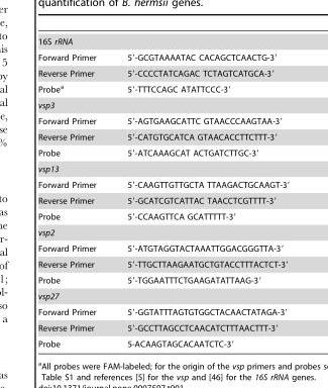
<table><tbody><tr><td colspan="2">16S rRNA</td></tr><tr><td>Forward Primer</td><td>5′-GCGTAAAATAC CACAGCTCAACTG-3′</td></tr><tr><td>Reverse Primer</td><td>5′-CCCCTATCAGAC TCTAGTCATGCA-3′</td></tr><tr><td>Probe<sup>a</sup></td><td>5′-TTTCCAGC ATATTCCC-3′</td></tr><tr><td colspan="2">vsp3</td></tr><tr><td>Forward Primer</td><td>5′-AGTGAAGCATTC GTAACCCAAGTAA-3′</td></tr><tr><td>Reverse Primer</td><td>5′-CATGTGCATCA GTAACACCTTCTTT-3′</td></tr><tr><td>Probe</td><td>5′-ATCAAAGCAT ACTGATCTTGC-3′</td></tr><tr><td colspan="2">vsp13</td></tr><tr><td>Forward Primer</td><td>5′-CAAGTTGTTGCTA TTAAGACTGCAAGT-3′</td></tr><tr><td>Reverse Primer</td><td>5′-GCATCGTCATTAC TAACCTCGTTTT-3′</td></tr><tr><td>Probe</td><td>5′-CCAAGTTCA GCATTTTT-3′</td></tr><tr><td colspan="2">vsp2</td></tr><tr><td>Forward Primer</td><td>5′-ATGTAGGTACTAAATTGGACGGGTTA-3′</td></tr><tr><td>Reverse Primer</td><td>5′-TTGCTTAAGAATGCTGTACCTTTACTCT-3′</td></tr><tr><td>Probe</td><td>5′-TGGAATTTCTGAAGATATTAAG-3′</td></tr><tr><td colspan="2">vsp27</td></tr><tr><td>Forward Primer</td><td>5′-GGTATTTAGTGTGGCTACAACTATAGA-3′</td></tr><tr><td>Reverse Primer</td><td>5′-GCCTTAGCCTCAACATCTTTAACTTT-3′</td></tr><tr><td>Probe</td><td>5-ACAAGTAGCACAATCTC-3′</td></tr></tbody></table>